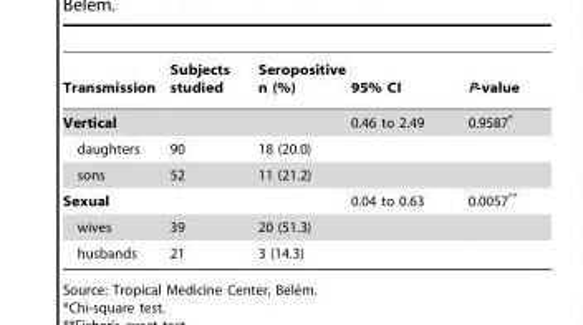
<table><thead><tr><td>Transmission</td><td>Subjects studied</td><td>Seropositive n (%)</td><td>95% CI</td><td>P-value</td></tr></thead><tbody><tr><td>Vertical</td><td></td><td></td><td>0.46 to 2.49</td><td>0.9587*</td></tr><tr><td>daughters</td><td>90</td><td>18 (20.0)</td><td></td><td></td></tr><tr><td>sons</td><td>52</td><td>11 (21.2)</td><td></td><td></td></tr><tr><td>Sexual</td><td></td><td></td><td>0.04 to 0.63</td><td>0.0057**</td></tr><tr><td>wives</td><td>39</td><td>20 (51.3)</td><td></td><td></td></tr><tr><td>husbands</td><td>21</td><td>3 (14.3)</td><td></td><td></td></tr></tbody></table>